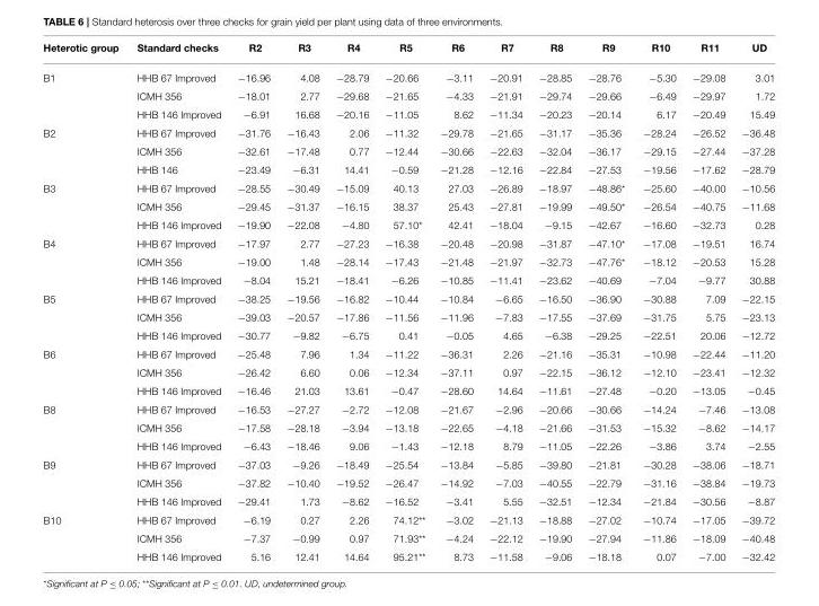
<table><thead><tr><td>Heterotic group</td><td>Standard checks</td><td>R2</td><td>R3</td><td>R4</td><td>R5</td><td>R6</td><td>R7</td><td>R8</td><td>R9</td><td>R10</td><td>R11</td><td>UD</td></tr></thead><tbody><tr><td rowspan="3">B1</td><td>HHB 67 Improved</td><td>−16.96</td><td>4.08</td><td>−28.79</td><td>−20.66</td><td>−3.11</td><td>−20.91</td><td>−28.85</td><td>−28.76</td><td>−5.30</td><td>−29.08</td><td>3.01</td></tr><tr><td>ICMH 356</td><td>−18.01</td><td>2.77</td><td>−29.68</td><td>−21.65</td><td>−4.33</td><td>−21.91</td><td>−29.74</td><td>−29.66</td><td>−6.49</td><td>−29.97</td><td>1.72</td></tr><tr><td>HHB 146 Improved</td><td>−6.91</td><td>16.68</td><td>−20.16</td><td>−11.05</td><td>8.62</td><td>−11.34</td><td>−20.23</td><td>−20.14</td><td>6.17</td><td>−20.49</td><td>15.49</td></tr><tr><td rowspan="3">B2</td><td>HHB 67 Improved</td><td>−31.76</td><td>−16.43</td><td>2.06</td><td>−11.32</td><td>−29.78</td><td>−21.65</td><td>−31.17</td><td>−35.36</td><td>−28.24</td><td>−26.52</td><td>−36.48</td></tr><tr><td>ICMH 356</td><td>−32.61</td><td>−17.48</td><td>0.77</td><td>−12.44</td><td>−30.66</td><td>−22.63</td><td>−32.04</td><td>−36.17</td><td>−29.15</td><td>−27.44</td><td>−37.28</td></tr><tr><td>HHB 146</td><td>−23.49</td><td>−6.31</td><td>14.41</td><td>−0.59</td><td>−21.28</td><td>−12.16</td><td>−22.84</td><td>−27.53</td><td>−19.56</td><td>−17.62</td><td>−28.79</td></tr><tr><td rowspan="3">B3</td><td>HHB 67 Improved</td><td>−28.55</td><td>−30.49</td><td>−15.09</td><td>40.13</td><td>27.03</td><td>−26.89</td><td>−18.97</td><td>−48.86*</td><td>−25.60</td><td>−40.00</td><td>−10.56</td></tr><tr><td>ICMH 356</td><td>−29.45</td><td>−31.37</td><td>−16.15</td><td>38.37</td><td>25.43</td><td>−27.81</td><td>−19.99</td><td>−49.50*</td><td>−26.54</td><td>−40.75</td><td>−11.68</td></tr><tr><td>HHB 146 Improved</td><td>−19.90</td><td>−22.08</td><td>−4.80</td><td>57.10*</td><td>42.41</td><td>−18.04</td><td>−9.15</td><td>−42.67</td><td>−16.60</td><td>−32.73</td><td>0.28</td></tr><tr><td rowspan="3">B4</td><td>HHB 67 Improved</td><td>−17.97</td><td>2.77</td><td>−27.23</td><td>−16.38</td><td>−20.48</td><td>−20.98</td><td>−31.87</td><td>−47.10*</td><td>−17.08</td><td>−19.51</td><td>16.74</td></tr><tr><td>ICMH 356</td><td>−19.00</td><td>1.48</td><td>−28.14</td><td>−17.43</td><td>−21.48</td><td>−21.97</td><td>−32.73</td><td>−47.76*</td><td>−18.12</td><td>−20.53</td><td>15.28</td></tr><tr><td>HHB 146 Improved</td><td>−8.04</td><td>15.21</td><td>−18.41</td><td>−6.26</td><td>−10.85</td><td>−11.41</td><td>−23.62</td><td>−40.69</td><td>−7.04</td><td>−9.77</td><td>30.88</td></tr><tr><td rowspan="3">B5</td><td>HHB 67 Improved</td><td>−38.25</td><td>−19.56</td><td>−16.82</td><td>−10.44</td><td>−10.84</td><td>−6.65</td><td>−16.50</td><td>−36.90</td><td>−30.88</td><td>7.09</td><td>−22.15</td></tr><tr><td>ICMH 356</td><td>−39.03</td><td>−20.57</td><td>−17.86</td><td>−11.56</td><td>−11.96</td><td>−7.83</td><td>−17.55</td><td>−37.69</td><td>−31.75</td><td>5.75</td><td>−23.13</td></tr><tr><td>HHB 146 Improved</td><td>−30.77</td><td>−9.82</td><td>−6.75</td><td>0.41</td><td>−0.05</td><td>4.65</td><td>−6.38</td><td>−29.25</td><td>−22.51</td><td>20.06</td><td>−12.72</td></tr><tr><td rowspan="3">B6</td><td>HHB 67 Improved</td><td>−25.48</td><td>7.96</td><td>1.34</td><td>−11.22</td><td>−36.31</td><td>2.26</td><td>−21.16</td><td>−35.31</td><td>−10.98</td><td>−22.44</td><td>−11.20</td></tr><tr><td>ICMH 356</td><td>−26.42</td><td>6.60</td><td>0.06</td><td>−12.34</td><td>−37.11</td><td>0.97</td><td>−22.15</td><td>−36.12</td><td>−12.10</td><td>−23.41</td><td>−12.32</td></tr><tr><td>HHB 146 Improved</td><td>−16.46</td><td>21.03</td><td>13.61</td><td>−0.47</td><td>−28.60</td><td>14.64</td><td>−11.61</td><td>−27.48</td><td>−0.20</td><td>−13.05</td><td>−0.45</td></tr><tr><td rowspan="3">B8</td><td>HHB 67 Improved</td><td>−16.53</td><td>−27.27</td><td>−2.72</td><td>−12.08</td><td>−21.67</td><td>−2.96</td><td>−20.66</td><td>−30.66</td><td>−14.24</td><td>−7.46</td><td>−13.08</td></tr><tr><td>ICMH 356</td><td>−17.58</td><td>−28.18</td><td>−3.94</td><td>−13.18</td><td>−22.65</td><td>−4.18</td><td>−21.66</td><td>−31.53</td><td>−15.32</td><td>−8.62</td><td>−14.17</td></tr><tr><td>HHB 146 Improved</td><td>−6.43</td><td>−18.46</td><td>9.06</td><td>−1.43</td><td>−12.18</td><td>8.79</td><td>−11.05</td><td>−22.26</td><td>−3.86</td><td>3.74</td><td>−2.55</td></tr><tr><td rowspan="3">B9</td><td>HHB 67 Improved</td><td>−37.03</td><td>−9.26</td><td>−18.49</td><td>−25.54</td><td>−13.84</td><td>−5.85</td><td>−39.80</td><td>−21.81</td><td>−30.28</td><td>−38.06</td><td>−18.71</td></tr><tr><td>ICMH 356</td><td>−37.82</td><td>−10.40</td><td>−19.52</td><td>−26.47</td><td>−14.92</td><td>−7.03</td><td>−40.55</td><td>−22.79</td><td>−31.16</td><td>−38.84</td><td>−19.73</td></tr><tr><td>HHB 146 Improved</td><td>−29.41</td><td>1.73</td><td>−8.62</td><td>−16.52</td><td>−3.41</td><td>5.55</td><td>−32.51</td><td>−12.34</td><td>−21.84</td><td>−30.56</td><td>−8.87</td></tr><tr><td rowspan="3">B10</td><td>HHB 67 Improved</td><td>−6.19</td><td>0.27</td><td>2.26</td><td>74.12**</td><td>−3.02</td><td>−21.13</td><td>−18.88</td><td>−27.02</td><td>−10.74</td><td>−17.05</td><td>−39.72</td></tr><tr><td>ICMH 356</td><td>−7.37</td><td>−0.99</td><td>0.97</td><td>71.93**</td><td>−4.24</td><td>−22.12</td><td>−19.90</td><td>−27.94</td><td>−11.86</td><td>−18.09</td><td>−40.48</td></tr><tr><td>HHB 146 Improved</td><td>5.16</td><td>12.41</td><td>14.64</td><td>95.21**</td><td>8.73</td><td>−11.58</td><td>−9.06</td><td>−18.18</td><td>0.07</td><td>−7.00</td><td>−32.42</td></tr></tbody></table>